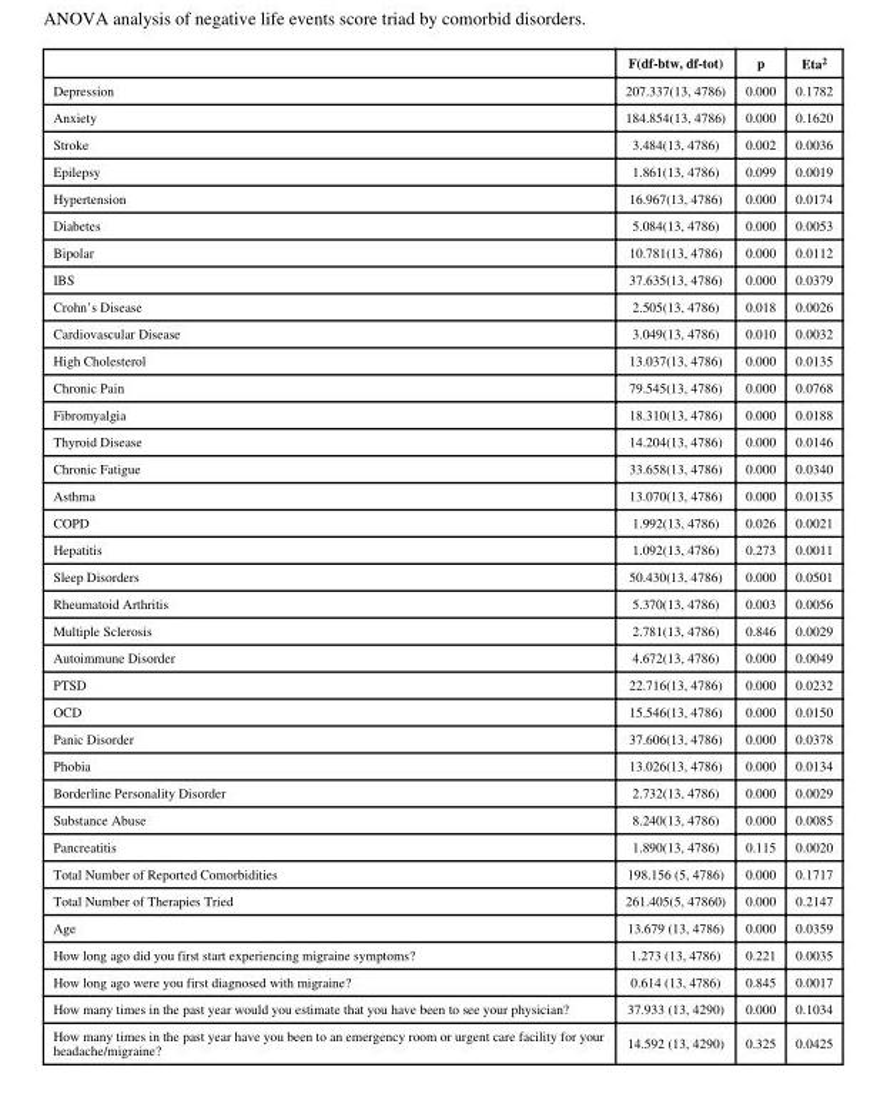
<table><thead><tr><td></td><td>F(df-btw, df-tot)</td><td>p</td><td>Eta<sup>2</sup></td></tr></thead><tbody><tr><td>Depression</td><td>207.337(13, 4786)</td><td>0.000</td><td>0.1782</td></tr><tr><td>Anxiety</td><td>184.854(13, 4786)</td><td>0.000</td><td>0.1620</td></tr><tr><td>Stroke</td><td>3.484(13, 4786)</td><td>0.002</td><td>0.0036</td></tr><tr><td>Epilepsy</td><td>1.861(13, 4786)</td><td>0.099</td><td>0.0019</td></tr><tr><td>Hypertension</td><td>16.967(13, 4786)</td><td>0.000</td><td>0.0174</td></tr><tr><td>Diabetes</td><td>5.084(13, 4786)</td><td>0.000</td><td>0.0053</td></tr><tr><td>Bipolar</td><td>10.781(13, 4786)</td><td>0.000</td><td>0.0112</td></tr><tr><td>IBS</td><td>37.635(13, 4786)</td><td>0.000</td><td>0.0379</td></tr><tr><td>Crohn’s Disease</td><td>2.505(13, 4786)</td><td>0.018</td><td>0.0026</td></tr><tr><td>Cardiovascular Disease</td><td>3.049(13, 4786)</td><td>0.010</td><td>0.0032</td></tr><tr><td>High Cholesterol</td><td>13.037(13, 4786)</td><td>0.000</td><td>0.0135</td></tr><tr><td>Chronic Pain</td><td>79.545(13, 4786)</td><td>0.000</td><td>0.0768</td></tr><tr><td>Fibromyalgia</td><td>18.310(13, 4786)</td><td>0.000</td><td>0.0188</td></tr><tr><td>Thyroid Disease</td><td>14.204(13, 4786)</td><td>0.000</td><td>0.0146</td></tr><tr><td>Chronic Fatigue</td><td>33.658(13, 4786)</td><td>0.000</td><td>0.0340</td></tr><tr><td>Asthma</td><td>13.070(13, 4786)</td><td>0.000</td><td>0.0135</td></tr><tr><td>COPD</td><td>1.992(13, 4786)</td><td>0.026</td><td>0.0021</td></tr><tr><td>Hepatitis</td><td>1.092(13, 4786)</td><td>0.273</td><td>0.0011</td></tr><tr><td>Sleep Disorders</td><td>50.430(13, 4786)</td><td>0.000</td><td>0.0501</td></tr><tr><td>Rheumatoid Arthritis</td><td>5.370(13, 4786)</td><td>0.003</td><td>0.0056</td></tr><tr><td>Multiple Sclerosis</td><td>2.781(13, 4786)</td><td>0.846</td><td>0.0029</td></tr><tr><td>Autoimmune Disorder</td><td>4.672(13, 4786)</td><td>0.000</td><td>0.0049</td></tr><tr><td>PTSD</td><td>22.716(13, 4786)</td><td>0.000</td><td>0.0232</td></tr><tr><td>OCD</td><td>15.546(13, 4786)</td><td>0.000</td><td>0.0150</td></tr><tr><td>Panic Disorder</td><td>37.606(13, 4786)</td><td>0.000</td><td>0.0378</td></tr><tr><td>Phobia</td><td>13.026(13, 4786)</td><td>0.000</td><td>0.0134</td></tr><tr><td>Borderline Personality Disorder</td><td>2.732(13, 4786)</td><td>0.000</td><td>0.0029</td></tr><tr><td>Substance Abuse</td><td>8.240(13, 4786)</td><td>0.000</td><td>0.0085</td></tr><tr><td>Pancreatitis</td><td>1.890(13, 4786)</td><td>0.115</td><td>0.0020</td></tr><tr><td>Total Number of Reported Comorbidities</td><td>198.156 (5, 4786)</td><td>0.000</td><td>0.1717</td></tr><tr><td>Total Number of Therapies Tried</td><td>261.405(5, 47860)</td><td>0.000</td><td>0.2147</td></tr><tr><td>Age</td><td>13.679 (13, 4786)</td><td>0.000</td><td>0.0359</td></tr><tr><td>How long ago did you first start experiencing migraine symptoms?</td><td>1.273 (13, 4786)</td><td>0.221</td><td>0.0035</td></tr><tr><td>How long ago were you first diagnosed with migraine?</td><td>0.614 (13, 4786)</td><td>0.845</td><td>0.0017</td></tr><tr><td>How many times in the past year would you estimate that you have been to see your physician?</td><td>37.933 (13, 4290)</td><td>0.000</td><td>0.1034</td></tr><tr><td>How many times in the past year have you been to an emergency room or urgent care facility for your headache/migraine?</td><td>14.592 (13, 4290)</td><td>0.325</td><td>0.0425</td></tr></tbody></table>